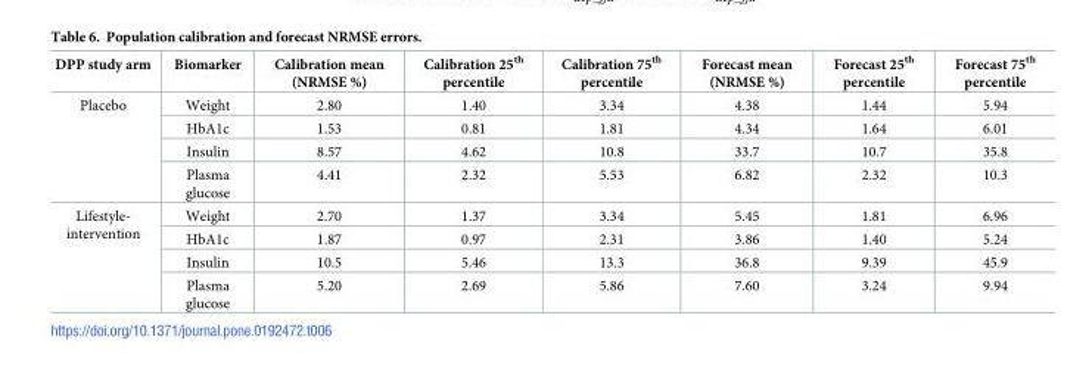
<table><thead><tr><td>DPP study arm</td><td>Biomarker</td><td>Calibration mean (NRMSE %)</td><td>Calibration 25<sup>th</sup> percentile</td><td>Calibration 75<sup>th</sup> percentile</td><td>Forecast mean (NRMSE %)</td><td>Forecast 25<sup>th</sup> percentile</td><td>Forecast 75<sup>th</sup> percentile</td></tr></thead><tbody><tr><td rowspan="4">Placebo</td><td>Weight</td><td>2.80</td><td>1.40</td><td>3.34</td><td>4.38</td><td>1.44</td><td>5.94</td></tr><tr><td>HbA1c</td><td>1.53</td><td>0.81</td><td>1.81</td><td>4.34</td><td>1.64</td><td>6.01</td></tr><tr><td>Insulin</td><td>8.57</td><td>4.62</td><td>10.8</td><td>33.7</td><td>10.7</td><td>35.8</td></tr><tr><td>Plasma glucose</td><td>4.41</td><td>2.32</td><td>5.53</td><td>6.82</td><td>2.32</td><td>10.3</td></tr><tr><td rowspan="4">Lifestyle- intervention</td><td>Weight</td><td>2.70</td><td>1.37</td><td>3.34</td><td>5.45</td><td>1.81</td><td>6.96</td></tr><tr><td>HbA1c</td><td>1.87</td><td>0.97</td><td>2.31</td><td>3.86</td><td>1.40</td><td>5.24</td></tr><tr><td>Insulin</td><td>10.5</td><td>5.46</td><td>13.3</td><td>36.8</td><td>9.39</td><td>45.9</td></tr><tr><td>Plasma glucose</td><td>5.20</td><td>2.69</td><td>5.86</td><td>7.60</td><td>3.24</td><td>9.94</td></tr></tbody></table>